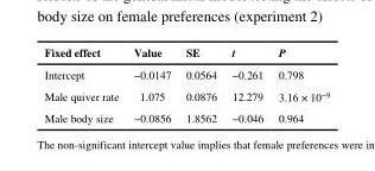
<table><thead><tr><td>Fixed effect</td><td>Value</td><td>SE</td><td>t</td><td>P</td></tr></thead><tbody><tr><td>Intercept</td><td>−0.0147</td><td>0.0564</td><td>−0.261</td><td>0.798</td></tr><tr><td>Male quiver rate</td><td>1.075</td><td>0.0876</td><td>12.279</td><td>3.16 × 10<sup>−9</sup></td></tr><tr><td>Male body size</td><td>−0.0856</td><td>1.8562</td><td>−0.046</td><td>0.964</td></tr></tbody></table>